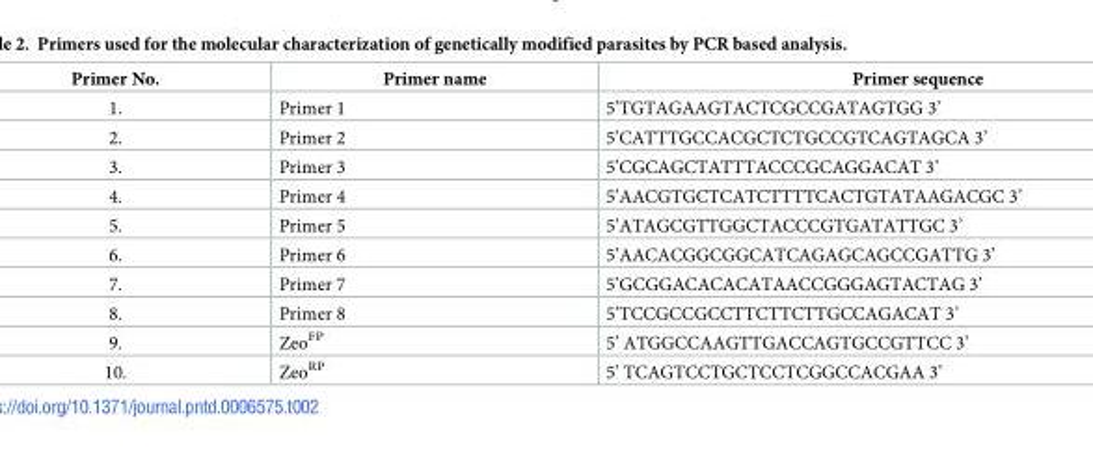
<table><thead><tr><td>Primer No.</td><td>Primer name</td><td>Primer sequence</td></tr></thead><tbody><tr><td>1.</td><td>Primer 1</td><td>5’TGTAGAAGTACTCGCCGATAGTGG 3’</td></tr><tr><td>2.</td><td>Primer 2</td><td>5’CATTTGCCACGCTCTGCCGTCAGTAGCA 3’</td></tr><tr><td>3.</td><td>Primer 3</td><td>5’CGCAGCTATTTACCCGCAGGACAT 3’</td></tr><tr><td>4.</td><td>Primer 4</td><td>5’AACGTGCTCATCTTTTCACTGTATAAGACGC 3’</td></tr><tr><td>5.</td><td>Primer 5</td><td>5’ATAGCGTTGGCTACCCGTGATATTGC 3’</td></tr><tr><td>6.</td><td>Primer 6</td><td>5’AACACGGCGGCATCAGAGCAGCCGATTG 3’</td></tr><tr><td>7.</td><td>Primer 7</td><td>5’GCGGACACACATAACCGGGAGTACTAG 3’</td></tr><tr><td>8.</td><td>Primer 8</td><td>5’TCCGCCGCCTTCTTCTTGCCAGACAT 3’</td></tr><tr><td>9.</td><td>Zeo<sup>FP</sup></td><td>5’ ATGGCCAAGTTGACCAGTGCCGTTCC 3’</td></tr><tr><td>10.</td><td>Zeo<sup>RP</sup></td><td>5’ TCAGTCCTGCTCCTCGGCCACGAA 3’</td></tr></tbody></table>